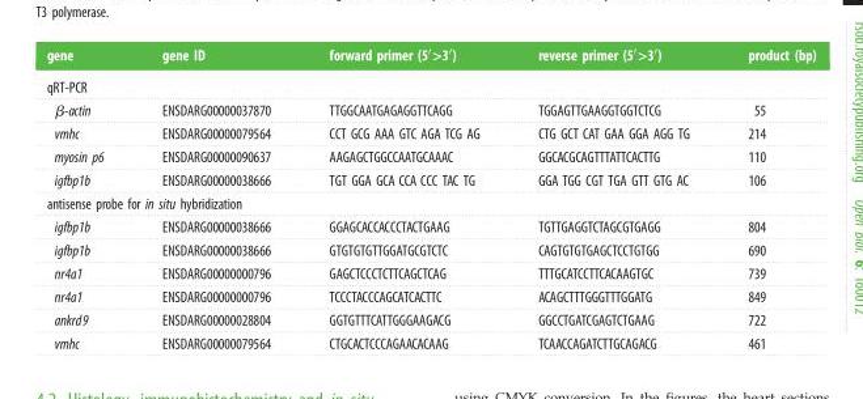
<table><thead><tr><td>gene</td><td>gene ID</td><td>forward primer (5′&gt;3′)</td><td>reverse primer (5′&gt;3′)</td><td>product (bp)</td></tr></thead><tbody><tr><td colspan="5">qRT-PCR</td></tr><tr><td>β-actin</td><td>ENSDARG00000037870</td><td>TTGGCAATGAGAGGTTCAGG</td><td>TGGAGTTGAAGGTGGTCTCG</td><td>55</td></tr><tr><td>vmhc</td><td>ENSDARG00000079564</td><td>CCT GCG AAA GTC AGA TCG AG</td><td>CTG GCT CAT GAA GGA AGG TG</td><td>214</td></tr><tr><td>myosin p6</td><td>ENSDARG00000090637</td><td>AAGAGCTGGCCAATGCAAAC</td><td>GGCACGCAGTTTATTCACTTG</td><td>110</td></tr><tr><td>igfbp1b</td><td>ENSDARG00000038666</td><td>TGT GGA GCA CCA CCC TAC TG</td><td>GGA TGG CGT TGA GTT GTG AC</td><td>106</td></tr><tr><td colspan="5">antisense probe for in situ hybridization</td></tr><tr><td>igfbp1b</td><td>ENSDARG00000038666</td><td>GGAGCACCACCCTACTGAAG</td><td>TGTTGAGGTCTAGCGTGAGG</td><td>804</td></tr><tr><td>igfbp1b</td><td>ENSDARG00000038666</td><td>GTGTGTGTTGGATGCGTCTC</td><td>CAGTGTGTGAGCTCCTGTGG</td><td>690</td></tr><tr><td>nr4a1</td><td>ENSDARG00000000796</td><td>GAGCTCCCTCTTCAGCTCAG</td><td>TTTGCATCCTTCACAAGTGC</td><td>739</td></tr><tr><td>nr4a1</td><td>ENSDARG00000000796</td><td>TCCCTACCCAGCATCACTTC</td><td>ACAGCTTTGGGTTTGGATG</td><td>849</td></tr><tr><td>ankrd9</td><td>ENSDARG00000028804</td><td>GGTGTTTCATTGGGAAGACG</td><td>GGCCTGATCGAGTCTGAAG</td><td>722</td></tr><tr><td>vmhc</td><td>ENSDARG00000079564</td><td>CTGCACTCCCAGAACACAAG</td><td>TCAACCAGATCTTGCAGACG</td><td>461</td></tr></tbody></table>